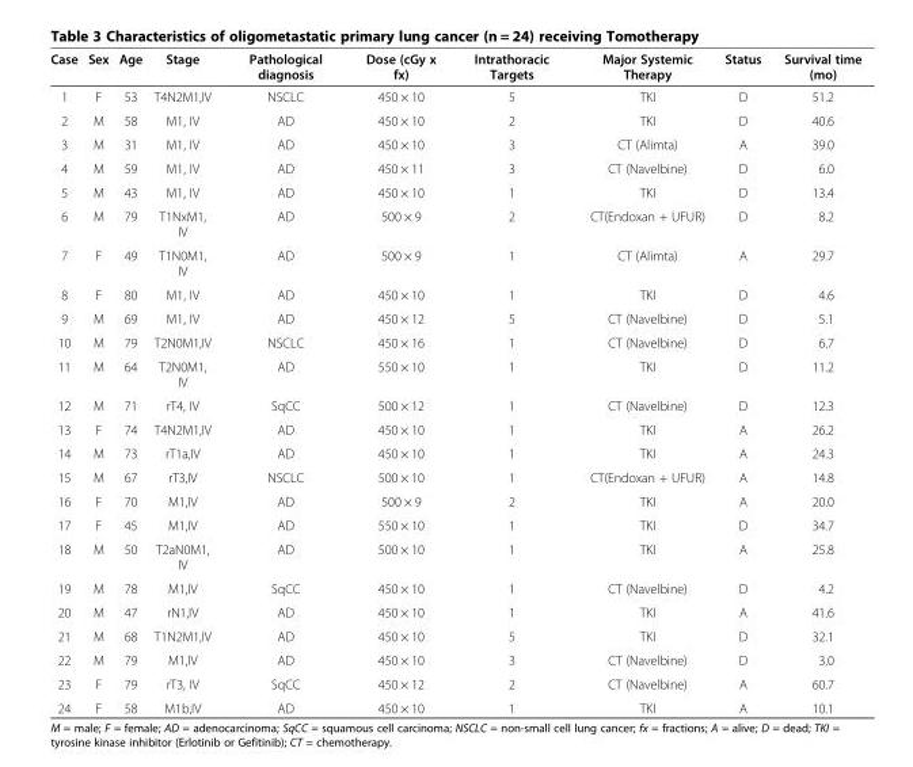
<table><thead><tr><td>Case</td><td>Sex</td><td>Age</td><td>Stage</td><td>Pathological diagnosis</td><td>Dose (cGy x fx)</td><td>Intrathoracic Targets</td><td>Major Systemic Therapy</td><td>Status</td><td>Survival time (mo)</td></tr></thead><tbody><tr><td>1</td><td>F</td><td>53</td><td>T4N2M1,IV</td><td>NSCLC</td><td>450 × 10</td><td>5</td><td>TKI</td><td>D</td><td>51.2</td></tr><tr><td>2</td><td>M</td><td>58</td><td>M1, IV</td><td>AD</td><td>450 × 10</td><td>2</td><td>TKI</td><td>D</td><td>40.6</td></tr><tr><td>3</td><td>M</td><td>31</td><td>M1, IV</td><td>AD</td><td>450 × 10</td><td>3</td><td>CT (Alimta)</td><td>A</td><td>39.0</td></tr><tr><td>4</td><td>M</td><td>59</td><td>M1, IV</td><td>AD</td><td>450 × 11</td><td>3</td><td>CT (Navelbine)</td><td>D</td><td>6.0</td></tr><tr><td>5</td><td>M</td><td>43</td><td>M1, IV</td><td>AD</td><td>450 × 10</td><td>1</td><td>TKI</td><td>D</td><td>13.4</td></tr><tr><td>6</td><td>M</td><td>79</td><td>T1NxM1, IV</td><td>AD</td><td>500 × 9</td><td>2</td><td>CT(Endoxan + UFUR)</td><td>D</td><td>8.2</td></tr><tr><td>7</td><td>F</td><td>49</td><td>T1N0M1, IV</td><td>AD</td><td>500 × 9</td><td>1</td><td>CT (Alimta)</td><td>A</td><td>29.7</td></tr><tr><td>8</td><td>F</td><td>80</td><td>M1, IV</td><td>AD</td><td>450 × 10</td><td>1</td><td>TKI</td><td>D</td><td>4.6</td></tr><tr><td>9</td><td>M</td><td>69</td><td>M1, IV</td><td>AD</td><td>450 × 12</td><td>5</td><td>CT (Navelbine)</td><td>D</td><td>5.1</td></tr><tr><td>10</td><td>M</td><td>79</td><td>T2N0M1,IV</td><td>NSCLC</td><td>450 × 16</td><td>1</td><td>CT (Navelbine)</td><td>D</td><td>6.7</td></tr><tr><td>11</td><td>M</td><td>64</td><td>T2N0M1, IV</td><td>AD</td><td>550 × 10</td><td>1</td><td>TKI</td><td>D</td><td>11.2</td></tr><tr><td>12</td><td>M</td><td>71</td><td>rT4, IV</td><td>SqCC</td><td>500 × 12</td><td>1</td><td>CT (Navelbine)</td><td>D</td><td>12.3</td></tr><tr><td>13</td><td>F</td><td>74</td><td>T4N2M1,IV</td><td>AD</td><td>450 × 10</td><td>1</td><td>TKI</td><td>A</td><td>26.2</td></tr><tr><td>14</td><td>M</td><td>73</td><td>rT1a,IV</td><td>AD</td><td>450 × 10</td><td>1</td><td>TKI</td><td>A</td><td>24.3</td></tr><tr><td>15</td><td>M</td><td>67</td><td>rT3,IV</td><td>NSCLC</td><td>500 × 10</td><td>1</td><td>CT(Endoxan + UFUR)</td><td>A</td><td>14.8</td></tr><tr><td>16</td><td>F</td><td>70</td><td>M1,IV</td><td>AD</td><td>500 × 9</td><td>2</td><td>TKI</td><td>A</td><td>20.0</td></tr><tr><td>17</td><td>F</td><td>45</td><td>M1,IV</td><td>AD</td><td>550 × 10</td><td>1</td><td>TKI</td><td>D</td><td>34.7</td></tr><tr><td>18</td><td>M</td><td>50</td><td>T2aN0M1, IV</td><td>AD</td><td>500 × 10</td><td>1</td><td>TKI</td><td>A</td><td>25.8</td></tr><tr><td>19</td><td>M</td><td>78</td><td>M1,IV</td><td>SqCC</td><td>450 × 10</td><td>1</td><td>CT (Navelbine)</td><td>D</td><td>4.2</td></tr><tr><td>20</td><td>M</td><td>47</td><td>rN1,IV</td><td>AD</td><td>450 × 10</td><td>1</td><td>TKI</td><td>A</td><td>41.6</td></tr><tr><td>21</td><td>M</td><td>68</td><td>T1N2M1,IV</td><td>AD</td><td>450 × 10</td><td>5</td><td>TKI</td><td>D</td><td>32.1</td></tr><tr><td>22</td><td>M</td><td>79</td><td>M1,IV</td><td>AD</td><td>450 × 10</td><td>3</td><td>CT (Navelbine)</td><td>D</td><td>3.0</td></tr><tr><td>23</td><td>F</td><td>79</td><td>rT3, IV</td><td>SqCC</td><td>450 × 12</td><td>2</td><td>CT (Navelbine)</td><td>A</td><td>60.7</td></tr><tr><td>24</td><td>F</td><td>58</td><td>M1b,IV</td><td>AD</td><td>450 × 10</td><td>1</td><td>TKI</td><td>A</td><td>10.1</td></tr></tbody></table>